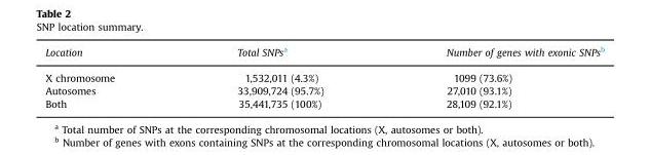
<table><thead><tr><td>Location</td><td>Total SNPs<sup>a</sup></td><td>Number of genes with exonic SNPs<sup>b</sup></td></tr></thead><tbody><tr><td>X chromosome</td><td>1,532,011 (4.3%)</td><td>1099 (73.6%)</td></tr><tr><td>Autosomes</td><td>33,909,724 (95.7%)</td><td>27,010 (93.1%)</td></tr><tr><td>Both</td><td>35,441,735 (100%)</td><td>28,109 (92.1%)</td></tr></tbody></table>